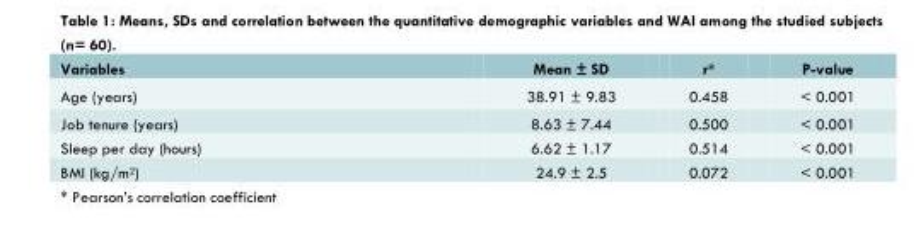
<table><thead><tr><td>Variables</td><td>Mean ± SD</td><td>r*</td><td>P-value</td></tr></thead><tbody><tr><td>Age (years)</td><td>38.91 ± 9.83</td><td>0.458</td><td>&lt; 0.001</td></tr><tr><td>Job tenure (years)</td><td>8.63 ± 7.44</td><td>0.500</td><td>&lt; 0.001</td></tr><tr><td>Sleep per day (hours)</td><td>6.62 ± 1.17</td><td>0.514</td><td>&lt; 0.001</td></tr><tr><td>BMI (kg/m2)</td><td>24.9 ± 2.5</td><td>0.072</td><td>&lt; 0.001</td></tr></tbody></table>